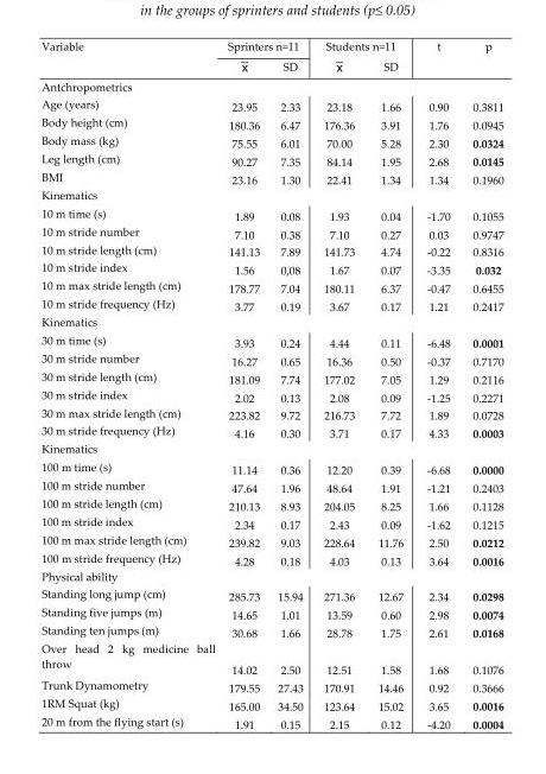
<table><thead><tr><td rowspan="2">Variable</td><td colspan="2">Sprinters n=11</td><td colspan="2">Students n=11</td><td rowspan="2">t</td><td rowspan="2">p</td></tr><tr><td>x</td><td>SD</td><td>x</td><td>SD</td></tr></thead><tbody><tr><td colspan="7">Antchropometrics</td></tr><tr><td>Age (years)</td><td>23.95</td><td>2.33</td><td>23.18</td><td>1.66</td><td>0.90</td><td>0.3811</td></tr><tr><td>Body height (cm)</td><td>180.36</td><td>6.47</td><td>176.36</td><td>3.91</td><td>1.76</td><td>0.0945</td></tr><tr><td>Body mass (kg)</td><td>75.55</td><td>6.01</td><td>70.00</td><td>5.28</td><td>2.30</td><td>0.0324</td></tr><tr><td>Leg length (cm)</td><td>90.27</td><td>7.35</td><td>84.14</td><td>1.95</td><td>2.68</td><td>0.0145</td></tr><tr><td>BMI</td><td>23.16</td><td>1.30</td><td>22.41</td><td>1.34</td><td>1.34</td><td>0.1960</td></tr><tr><td colspan="7">Kinematics</td></tr><tr><td>10 m time (s)</td><td>1.89</td><td>0.08</td><td>1.93</td><td>0.04</td><td>-1.70</td><td>0.1055</td></tr><tr><td>10 m stride number</td><td>7.10</td><td>0.38</td><td>7.10</td><td>0.27</td><td>0.03</td><td>0.9747</td></tr><tr><td>10 m stride length (cm)</td><td>141.13</td><td>7.89</td><td>141.73</td><td>4.74</td><td>-0.22</td><td>0.8316</td></tr><tr><td>10 m stride index</td><td>1.56</td><td>0,08</td><td>1.67</td><td>0.07</td><td>-3.35</td><td>0.032</td></tr><tr><td>10 m max stride length (cm)</td><td>178.77</td><td>7.04</td><td>180.11</td><td>6.37</td><td>-0.47</td><td>0.6455</td></tr><tr><td>10 m stride frequency (Hz)</td><td>3.77</td><td>0.19</td><td>3.67</td><td>0.17</td><td>1.21</td><td>0.2417</td></tr><tr><td colspan="7">Kinematics</td></tr><tr><td>30 m time (s)</td><td>3.93</td><td>0.24</td><td>4.44</td><td>0.11</td><td>-6.48</td><td>0.0001</td></tr><tr><td>30 m stride number</td><td>16.27</td><td>0.65</td><td>16.36</td><td>0.50</td><td>-0.37</td><td>0.7170</td></tr><tr><td>30 m stride length (cm)</td><td>181.09</td><td>7.74</td><td>177.02</td><td>7.05</td><td>1.29</td><td>0.2116</td></tr><tr><td>30 m stride index</td><td>2.02</td><td>0.13</td><td>2.08</td><td>0.09</td><td>-1.25</td><td>0.2271</td></tr><tr><td>30 m max stride length (cm)</td><td>223.82</td><td>9.72</td><td>216.73</td><td>7.72</td><td>1.89</td><td>0.0728</td></tr><tr><td>30 m stride frequency (Hz)</td><td>4.16</td><td>0.30</td><td>3.71</td><td>0.17</td><td>4.33</td><td>0.0003</td></tr><tr><td colspan="7">Kinematics</td></tr><tr><td>100 m time (s)</td><td>11.14</td><td>0.36</td><td>12.20</td><td>0.39</td><td>-6.68</td><td>0.0000</td></tr><tr><td>100 m stride number</td><td>47.64</td><td>1.96</td><td>48.64</td><td>1.91</td><td>-1.21</td><td>0.2403</td></tr><tr><td>100 m stride length (cm)</td><td>210.13</td><td>8.93</td><td>204.05</td><td>8.25</td><td>1.66</td><td>0.1128</td></tr><tr><td>100 m stride index</td><td>2.34</td><td>0.17</td><td>2.43</td><td>0.09</td><td>-1.62</td><td>0.1215</td></tr><tr><td>100 m max stride length (cm)</td><td>239.82</td><td>9.03</td><td>228.64</td><td>11.76</td><td>2.50</td><td>0.0212</td></tr><tr><td>100 m stride frequency (Hz)</td><td>4.28</td><td>0.18</td><td>4.03</td><td>0.13</td><td>3.64</td><td>0.0016</td></tr><tr><td colspan="7">Physical ability</td></tr><tr><td>Standing long jump (cm)</td><td>285.73</td><td>15.94</td><td>271.36</td><td>12.67</td><td>2.34</td><td>0.0298</td></tr><tr><td>Standing five jumps (m)</td><td>14.65</td><td>1.01</td><td>13.59</td><td>0.60</td><td>2.98</td><td>0.0074</td></tr><tr><td>Standing ten jumps (m)</td><td>30.68</td><td>1.66</td><td>28.78</td><td>1.75</td><td>2.61</td><td>0.0168</td></tr><tr><td>Over head 2 kg medicine ball throw</td><td>14.02</td><td>2.50</td><td>12.51</td><td>1.58</td><td>1.68</td><td>0.1076</td></tr><tr><td>Trunk Dynamometry</td><td>179.55</td><td>27.43</td><td>170.91</td><td>14.46</td><td>0.92</td><td>0.3666</td></tr><tr><td>1RM Squat (kg)</td><td>165.00</td><td>34.50</td><td>123.64</td><td>15.02</td><td>3.65</td><td>0.0016</td></tr><tr><td>20 m from the flying start (s)</td><td>1.91</td><td>0.15</td><td>2.15</td><td>0.12</td><td>-4.20</td><td>0.0004</td></tr></tbody></table>